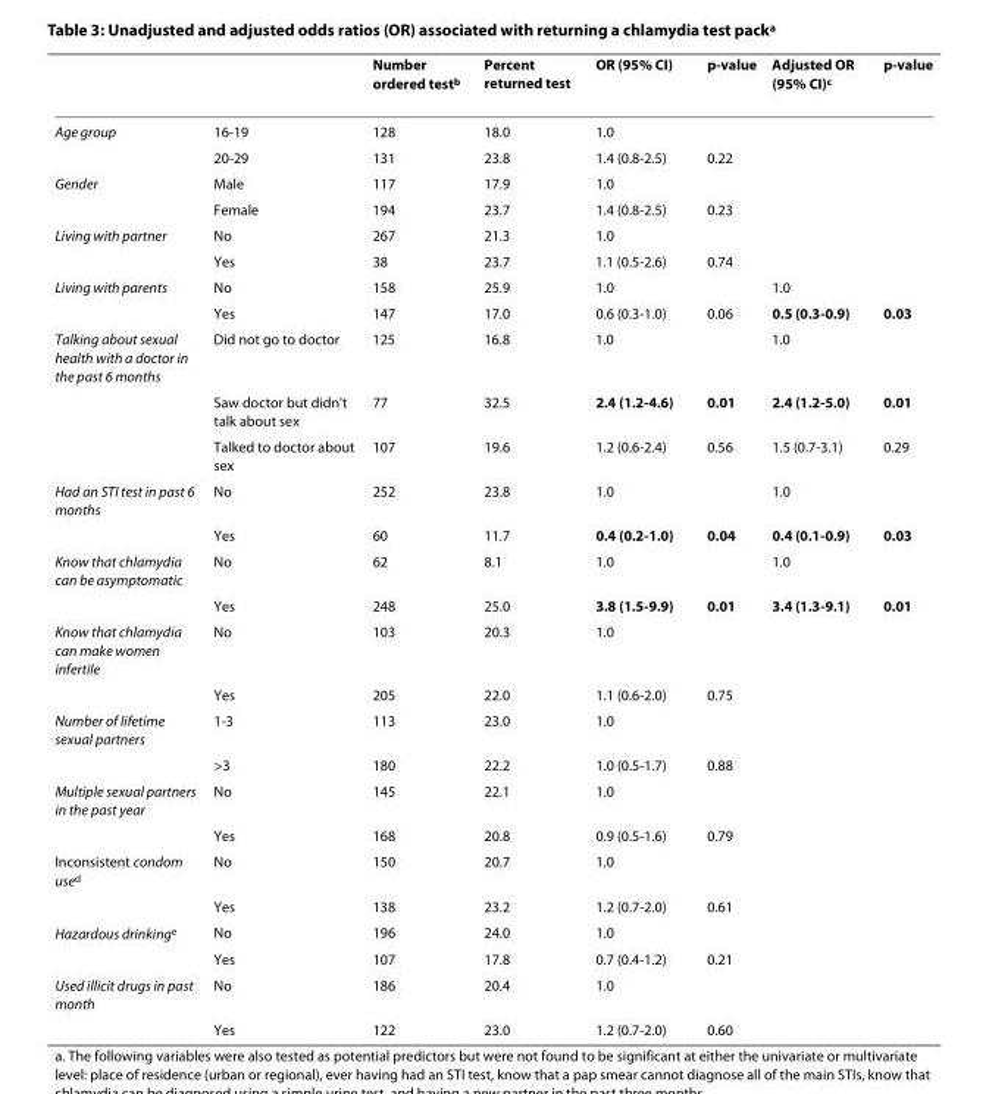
<table><thead><tr><td></td><td></td><td>Number ordered test<sup>b</sup></td><td>Percent returned test</td><td>OR (95% CI)</td><td>p-value</td><td>Adjusted OR (95% CI)<sup>c</sup></td><td>p-value</td></tr></thead><tbody><tr><td rowspan="2">Age group</td><td>16-19</td><td>128</td><td>18.0</td><td>1.0</td><td></td><td></td><td></td></tr><tr><td>20-29</td><td>131</td><td>23.8</td><td>1.4 (0.8-2.5)</td><td>0.22</td><td></td><td></td></tr><tr><td rowspan="2">Gender</td><td>Male</td><td>117</td><td>17.9</td><td>1.0</td><td></td><td></td><td></td></tr><tr><td>Female</td><td>194</td><td>23.7</td><td>1.4 (0.8-2.5)</td><td>0.23</td><td></td><td></td></tr><tr><td rowspan="2">Living with partner</td><td>No</td><td>267</td><td>21.3</td><td>1.0</td><td></td><td></td><td></td></tr><tr><td>Yes</td><td>38</td><td>23.7</td><td>1.1 (0.5-2.6)</td><td>0.74</td><td></td><td></td></tr><tr><td rowspan="2">Living with parents</td><td>No</td><td>158</td><td>25.9</td><td>1.0</td><td></td><td>1.0</td><td></td></tr><tr><td>Yes</td><td>147</td><td>17.0</td><td>0.6 (0.3-1.0)</td><td>0.06</td><td>0.5 (0.3-0.9)</td><td>0.03</td></tr><tr><td rowspan="3">Talking about sexual health with a doctor in the past 6 months</td><td>Did not go to doctor</td><td>125</td><td>16.8</td><td>1.0</td><td></td><td>1.0</td><td></td></tr><tr><td>Saw doctor but didn&#x27;t talk about sex</td><td>77</td><td>32.5</td><td>2.4 (1.2-4.6)</td><td>0.01</td><td>2.4 (1.2-5.0)</td><td>0.01</td></tr><tr><td>Talked to doctor about sex</td><td>107</td><td>19.6</td><td>1.2 (0.6-2.4)</td><td>0.56</td><td>1.5 (0.7-3.1)</td><td>0.29</td></tr><tr><td rowspan="2">Had an STI test in past 6 months</td><td>No</td><td>252</td><td>23.8</td><td>1.0</td><td></td><td>1.0</td><td></td></tr><tr><td>Yes</td><td>60</td><td>11.7</td><td>0.4 (0.2-1.0)</td><td>0.04</td><td>0.4 (0.1-0.9)</td><td>0.03</td></tr><tr><td rowspan="2">Know that chlamydia can be asymptomatic</td><td>No</td><td>62</td><td>8.1</td><td>1.0</td><td></td><td>1.0</td><td></td></tr><tr><td>Yes</td><td>248</td><td>25.0</td><td>3.8 (1.5-9.9)</td><td>0.01</td><td>3.4 (1.3-9.1)</td><td>0.01</td></tr><tr><td rowspan="2">Know that chlamydia can make women infertile</td><td>No</td><td>103</td><td>20.3</td><td>1.0</td><td></td><td></td><td></td></tr><tr><td>Yes</td><td>205</td><td>22.0</td><td>1.1 (0.6-2.0)</td><td>0.75</td><td></td><td></td></tr><tr><td rowspan="2">Number of lifetime sexual partners</td><td>1-3</td><td>113</td><td>23.0</td><td>1.0</td><td></td><td></td><td></td></tr><tr><td>&gt;3</td><td>180</td><td>22.2</td><td>1.0 (0.5-1.7)</td><td>0.88</td><td></td><td></td></tr><tr><td rowspan="2">Multiple sexual partners in the past year</td><td>No</td><td>145</td><td>22.1</td><td>1.0</td><td></td><td></td><td></td></tr><tr><td>Yes</td><td>168</td><td>20.8</td><td>0.9 (0.5-1.6)</td><td>0.79</td><td></td><td></td></tr><tr><td rowspan="2">Inconsistent condom use<sup>d</sup></td><td>No</td><td>150</td><td>20.7</td><td>1.0</td><td></td><td></td><td></td></tr><tr><td>Yes</td><td>138</td><td>23.2</td><td>1.2 (0.7-2.0)</td><td>0.61</td><td></td><td></td></tr><tr><td rowspan="2">Hazardous drinking<sup>e</sup></td><td>No</td><td>196</td><td>24.0</td><td>1.0</td><td></td><td></td><td></td></tr><tr><td>Yes</td><td>107</td><td>17.8</td><td>0.7 (0.4-1.2)</td><td>0.21</td><td></td><td></td></tr><tr><td rowspan="2">Used illicit drugs in past month</td><td>No</td><td>186</td><td>20.4</td><td>1.0</td><td></td><td></td><td></td></tr><tr><td>Yes</td><td>122</td><td>23.0</td><td>1.2 (0.7-2.0)</td><td>0.60</td><td></td><td></td></tr></tbody></table>